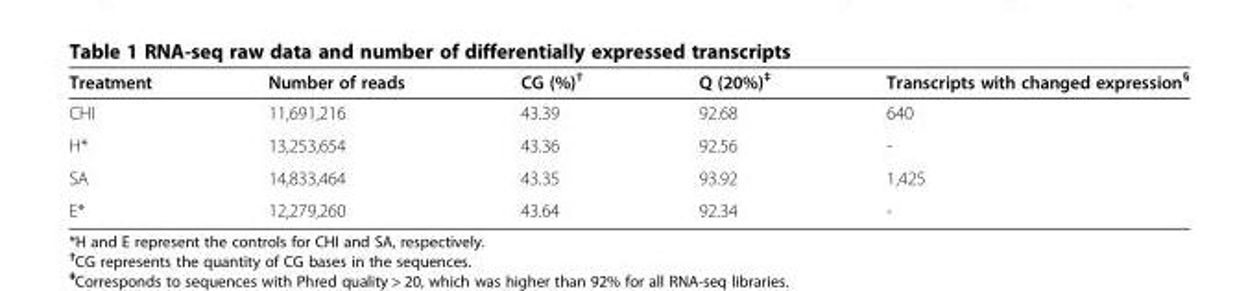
<table><thead><tr><td>Treatment</td><td>Number of reads</td><td>CG (%)<sup>†</sup></td><td>Q (20%)<sup>‡</sup></td><td>Transcripts with changed expression<sup>§</sup></td></tr></thead><tbody><tr><td>CHI</td><td>11,691,216</td><td>43.39</td><td>92.68</td><td>640</td></tr><tr><td>H*</td><td>13,253,654</td><td>43.36</td><td>92.56</td><td>-</td></tr><tr><td>SA</td><td>14,833,464</td><td>43.35</td><td>93.92</td><td>1,425</td></tr><tr><td>E*</td><td>12,279,260</td><td>43.64</td><td>92.34</td><td>-</td></tr></tbody></table>